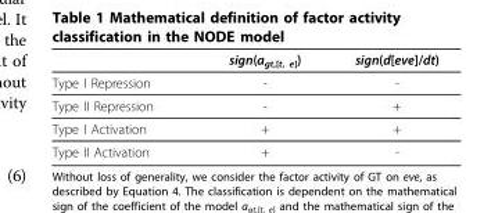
<table><thead><tr><td></td><td>sign(a<sub>gt,[t, e]</sub>)</td><td>sign(d[eve]/dt)</td></tr></thead><tbody><tr><td>Type I Repression</td><td>-</td><td>-</td></tr><tr><td>Type II Repression</td><td>-</td><td>+</td></tr><tr><td>Type I Activation</td><td>+</td><td>+</td></tr><tr><td>Type II Activation</td><td>+</td><td>-</td></tr></tbody></table>